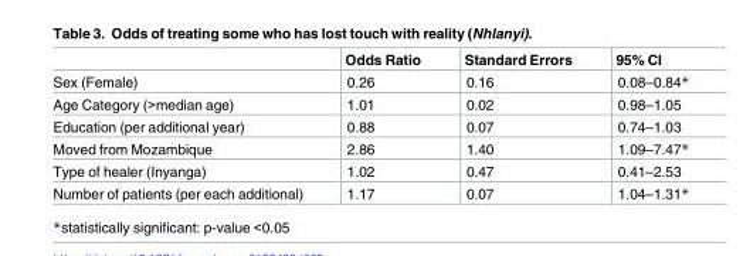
<table><thead><tr><td></td><td>Odds Ratio</td><td>Standard Errors</td><td>95% CI</td></tr></thead><tbody><tr><td>Sex (Female)</td><td>0.26</td><td>0.16</td><td>0.08–0.84*</td></tr><tr><td>Age Category (&gt;median age)</td><td>1.01</td><td>0.02</td><td>0.98–1.05</td></tr><tr><td>Education (per additional year)</td><td>0.88</td><td>0.07</td><td>0.74–1.03</td></tr><tr><td>Moved from Mozambique</td><td>2.86</td><td>1.40</td><td>1.09–7.47*</td></tr><tr><td>Type of healer (Inyanga)</td><td>1.02</td><td>0.47</td><td>0.41–2.53</td></tr><tr><td>Number of patients (per each additional)</td><td>1.17</td><td>0.07</td><td>1.04–1.31*</td></tr></tbody></table>